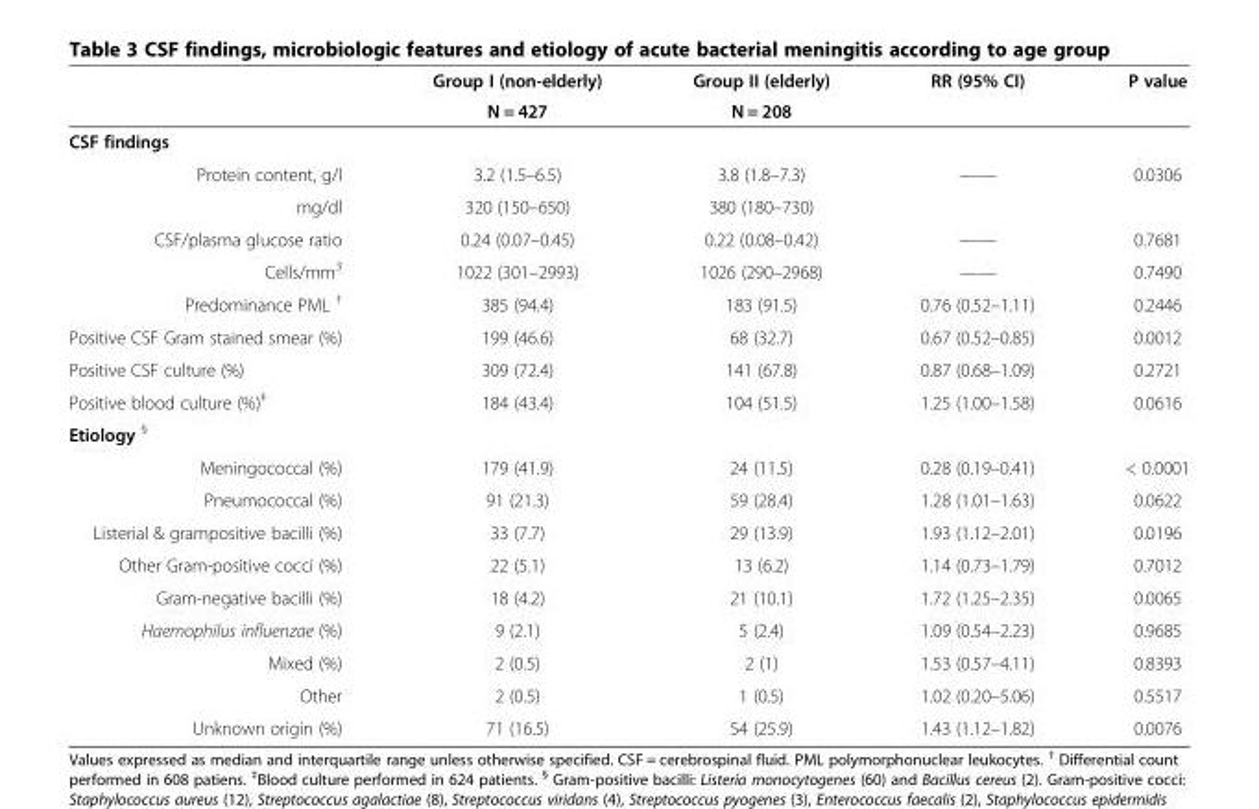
<table><thead><tr><td rowspan="2"></td><td rowspan="2">Group I (non-elderly) N = 427</td><td rowspan="2">Group II (elderly) N = 208</td><td rowspan="2">RR (95% CI)</td><td rowspan="2">P value</td></tr><tr></tr></thead><tbody><tr><td colspan="5">CSF findings</td></tr><tr><td>Protein content, g/l</td><td>3.2 (1.5–6.5)</td><td>3.8 (1.8–7.3)</td><td rowspan="2">——</td><td rowspan="2">0.0306</td></tr><tr><td>mg/dl</td><td>320 (150–650)</td><td>380 (180–730)</td></tr><tr><td>CSF/plasma glucose ratio</td><td>0.24 (0.07–0.45)</td><td>0.22 (0.08–0.42)</td><td>——</td><td>0.7681</td></tr><tr><td>Cells/mm<sup>3</sup></td><td>1022 (301–2993)</td><td>1026 (290–2968)</td><td>——</td><td>0.7490</td></tr><tr><td>Predominance PML <sup>†</sup></td><td>385 (94.4)</td><td>183 (91.5)</td><td>0.76 (0.52–1.11)</td><td>0.2446</td></tr><tr><td>Positive CSF Gram stained smear (%)</td><td>199 (46.6)</td><td>68 (32.7)</td><td>0.67 (0.52–0.85)</td><td>0.0012</td></tr><tr><td>Positive CSF culture (%)</td><td>309 (72.4)</td><td>141 (67.8)</td><td>0.87 (0.68–1.09)</td><td>0.2721</td></tr><tr><td>Positive blood culture (%)<sup>‡</sup></td><td>184 (43.4)</td><td>104 (51.5)</td><td>1.25 (1.00–1.58)</td><td>0.0616</td></tr><tr><td colspan="5">Etiology <sup>§</sup></td></tr><tr><td>Meningococcal (%)</td><td>179 (41.9)</td><td>24 (11.5)</td><td>0.28 (0.19–0.41)</td><td>&lt; 0.0001</td></tr><tr><td>Pneumococcal (%)</td><td>91 (21.3)</td><td>59 (28.4)</td><td>1.28 (1.01–1.63)</td><td>0.0622</td></tr><tr><td>Listerial &amp; grampositive bacilli (%)</td><td>33 (7.7)</td><td>29 (13.9)</td><td>1.93 (1.12–2.01)</td><td>0.0196</td></tr><tr><td>Other Gram-positive cocci (%)</td><td>22 (5.1)</td><td>13 (6.2)</td><td>1.14 (0.73–1.79)</td><td>0.7012</td></tr><tr><td>Gram-negative bacilli (%)</td><td>18 (4.2)</td><td>21 (10.1)</td><td>1.72 (1.25–2.35)</td><td>0.0065</td></tr><tr><td>Haemophilus influenzae (%)</td><td>9 (2.1)</td><td>5 (2.4)</td><td>1.09 (0.54–2.23)</td><td>0.9685</td></tr><tr><td>Mixed (%)</td><td>2 (0.5)</td><td>2 (1)</td><td>1.53 (0.57–4.11)</td><td>0.8393</td></tr><tr><td>Other</td><td>2 (0.5)</td><td>1 (0.5)</td><td>1.02 (0.20–5.06)</td><td>0.5517</td></tr><tr><td>Unknown origin (%)</td><td>71 (16.5)</td><td>54 (25.9)</td><td>1.43 (1.12–1.82)</td><td>0.0076</td></tr></tbody></table>